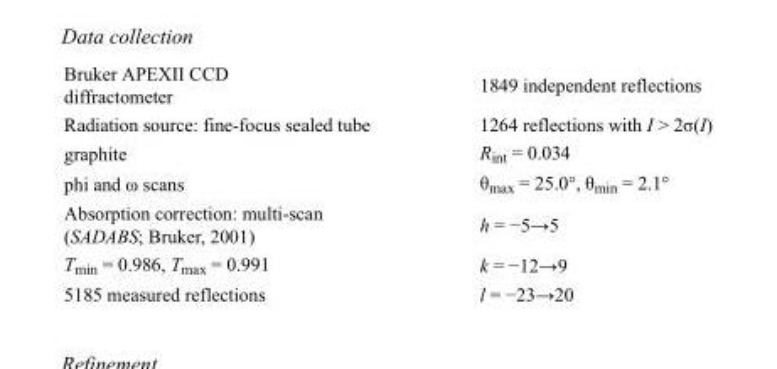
<table><tbody><tr><td>Bruker APEXII CCD diffractometer</td><td>1849 independent reflections</td></tr><tr><td>Radiation source: fine-focus sealed tube</td><td>1264 reflections with I &gt; 2σ(I)</td></tr><tr><td>graphite</td><td>R<sub>int</sub> = 0.034</td></tr><tr><td>phi and ω scans</td><td>θ<sub>max</sub> = 25.0°, θ<sub>min</sub> = 2.1°</td></tr><tr><td>Absorption correction: multi-scan (SADABS; Bruker, 2001)</td><td>h = −5→5</td></tr><tr><td>T<sub>min</sub> = 0.986, T<sub>max</sub> = 0.991</td><td>k = −12→9</td></tr><tr><td>5185 measured reflections</td><td>l = −23→20</td></tr></tbody></table>